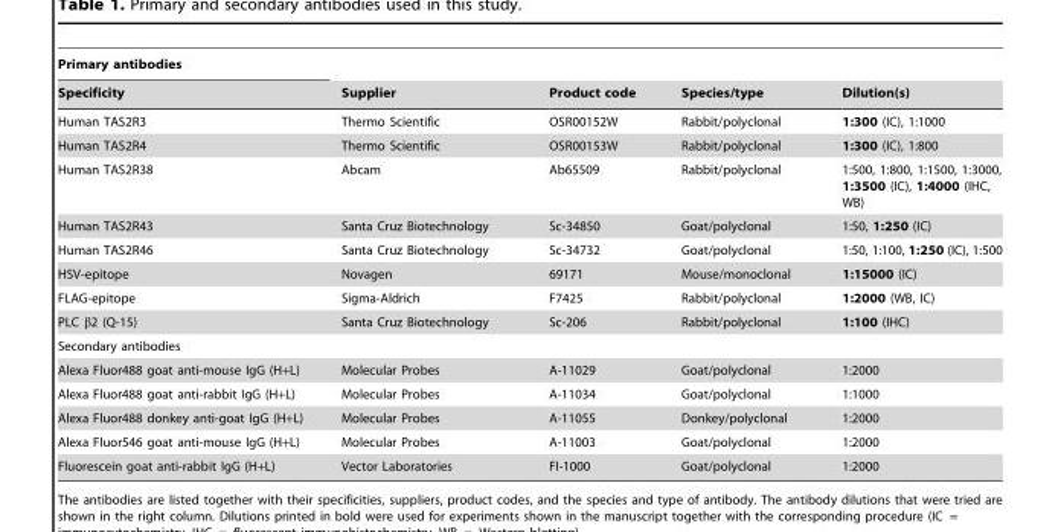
<table><thead><tr><td rowspan="2">Primary antibodies Specificity</td><td rowspan="2">Supplier</td><td rowspan="2">Product code</td><td rowspan="2">Species/type</td><td rowspan="2">Dilution(s)</td></tr><tr></tr></thead><tbody><tr><td>Human TAS2R3</td><td>Thermo Scientific</td><td>OSR00152W</td><td>Rabbit/polyclonal</td><td>1:300 (IC), 1:1000</td></tr><tr><td>Human TAS2R4</td><td>Thermo Scientific</td><td>OSR00153W</td><td>Rabbit/polyclonal</td><td>1:300 (IC), 1:800</td></tr><tr><td>Human TAS2R38</td><td>Abcam</td><td>Ab65509</td><td>Rabbit/polyclonal</td><td>1:500, 1:800, 1:1500, 1:3000, 1:3500 (IC), 1:4000 (IHC, WB)</td></tr><tr><td>Human TAS2R43</td><td>Santa Cruz Biotechnology</td><td>Sc-34850</td><td>Goat/polyclonal</td><td>1:50, 1:250 (IC)</td></tr><tr><td>Human TAS2R46</td><td>Santa Cruz Biotechnology</td><td>Sc-34732</td><td>Goat/polyclonal</td><td>1:50, 1:100, 1:250 (IC), 1:500</td></tr><tr><td>HSV-epitope</td><td>Novagen</td><td>69171</td><td>Mouse/monoclonal</td><td>1:15000 (IC)</td></tr><tr><td>FLAG-epitope</td><td>Sigma-Aldrich</td><td>F7425</td><td>Rabbit/polyclonal</td><td>1:2000 (WB, IC)</td></tr><tr><td>PLC β2 (Q-15)</td><td>Santa Cruz Biotechnology</td><td>Sc-206</td><td>Rabbit/polyclonal</td><td>1:100 (IHC)</td></tr><tr><td colspan="5">Secondary antibodies</td></tr><tr><td>Alexa Fluor488 goat anti-mouse IgG (H+L)</td><td>Molecular Probes</td><td>A-11029</td><td>Goat/polyclonal</td><td>1:2000</td></tr><tr><td>Alexa Fluor488 goat anti-rabbit IgG (H+L)</td><td>Molecular Probes</td><td>A-11034</td><td>Goat/polyclonal</td><td>1:1000</td></tr><tr><td>Alexa Fluor488 donkey anti-goat IgG (H+L)</td><td>Molecular Probes</td><td>A-11055</td><td>Donkey/polyclonal</td><td>1:2000</td></tr><tr><td>Alexa Fluor546 goat anti-mouse IgG (H+L)</td><td>Molecular Probes</td><td>A-11003</td><td>Goat/polyclonal</td><td>1:2000</td></tr><tr><td>Fluorescein goat anti-rabbit IgG (H+L)</td><td>Vector Laboratories</td><td>FI-1000</td><td>Goat/polyclonal</td><td>1:2000</td></tr></tbody></table>